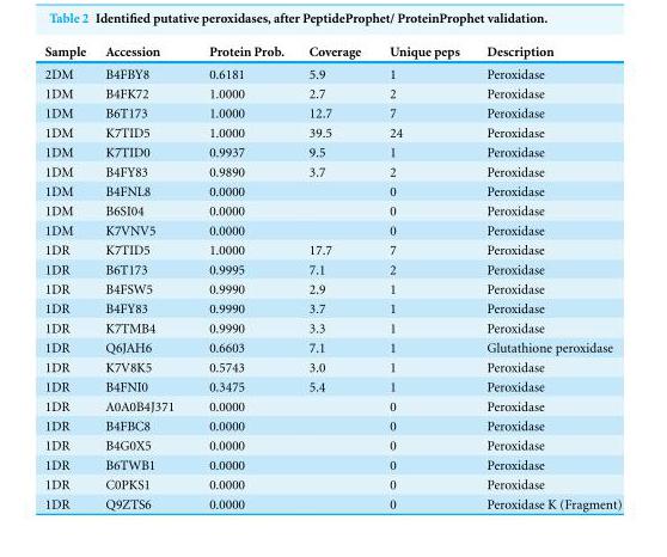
<table><thead><tr><td>Sample</td><td>Accession</td><td>Protein Prob.</td><td>Coverage</td><td>Unique peps</td><td>Description</td></tr></thead><tbody><tr><td>2DM</td><td>B4FBY8</td><td>0.6181</td><td>5.9</td><td>1</td><td>Peroxidase</td></tr><tr><td>1DM</td><td>B4FK72</td><td>1.0000</td><td>2.7</td><td>2</td><td>Peroxidase</td></tr><tr><td>1DM</td><td>B6T173</td><td>1.0000</td><td>12.7</td><td>7</td><td>Peroxidase</td></tr><tr><td>1DM</td><td>K7TID5</td><td>1.0000</td><td>39.5</td><td>24</td><td>Peroxidase</td></tr><tr><td>1DM</td><td>K7TID0</td><td>0.9937</td><td>9.5</td><td>1</td><td>Peroxidase</td></tr><tr><td>1DM</td><td>B4FY83</td><td>0.9890</td><td>3.7</td><td>2</td><td>Peroxidase</td></tr><tr><td>1DM</td><td>B4FNL8</td><td>0.0000</td><td></td><td>0</td><td>Peroxidase</td></tr><tr><td>1DM</td><td>B6SI04</td><td>0.0000</td><td></td><td>0</td><td>Peroxidase</td></tr><tr><td>1DM</td><td>K7VNV5</td><td>0.0000</td><td></td><td>0</td><td>Peroxidase</td></tr><tr><td>1DR</td><td>K7TID5</td><td>1.0000</td><td>17.7</td><td>7</td><td>Peroxidase</td></tr><tr><td>1DR</td><td>B6T173</td><td>0.9995</td><td>7.1</td><td>2</td><td>Peroxidase</td></tr><tr><td>1DR</td><td>B4FSW5</td><td>0.9990</td><td>2.9</td><td>1</td><td>Peroxidase</td></tr><tr><td>1DR</td><td>B4FY83</td><td>0.9990</td><td>3.7</td><td>1</td><td>Peroxidase</td></tr><tr><td>1DR</td><td>K7TMB4</td><td>0.9990</td><td>3.3</td><td>1</td><td>Peroxidase</td></tr><tr><td>1DR</td><td>Q6JAH6</td><td>0.6603</td><td>7.1</td><td>1</td><td>Glutathione peroxidase</td></tr><tr><td>1DR</td><td>K7V8K5</td><td>0.5743</td><td>3.0</td><td>1</td><td>Peroxidase</td></tr><tr><td>1DR</td><td>B4FNI0</td><td>0.3475</td><td>5.4</td><td>1</td><td>Peroxidase</td></tr><tr><td>1DR</td><td>A0A0B4J371</td><td>0.0000</td><td></td><td>0</td><td>Peroxidase</td></tr><tr><td>1DR</td><td>B4FBC8</td><td>0.0000</td><td></td><td>0</td><td>Peroxidase</td></tr><tr><td>1DR</td><td>B4G0X5</td><td>0.0000</td><td></td><td>0</td><td>Peroxidase</td></tr><tr><td>1DR</td><td>B6TWB1</td><td>0.0000</td><td></td><td>0</td><td>Peroxidase</td></tr><tr><td>1DR</td><td>C0PKS1</td><td>0.0000</td><td></td><td>0</td><td>Peroxidase</td></tr><tr><td>1DR</td><td>Q9ZTS6</td><td>0.0000</td><td></td><td>0</td><td>Peroxidase K (Fragment)</td></tr></tbody></table>